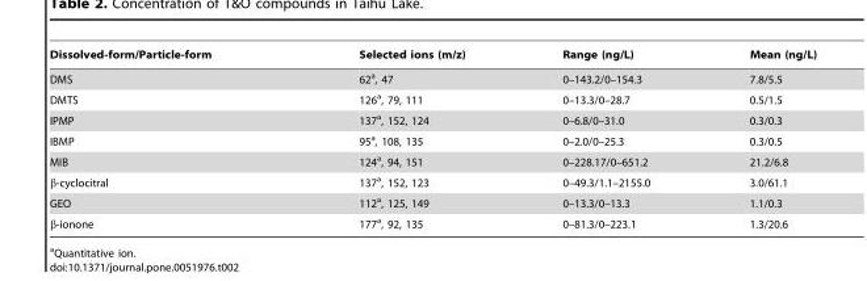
<table><thead><tr><td>Dissolved-form/Particle-form</td><td>Selected ions (m/z)</td><td>Range (ng/L)</td><td>Mean (ng/L)</td></tr></thead><tbody><tr><td>DMS</td><td>62<sup>a</sup>, 47</td><td>0–143.2/0–154.3</td><td>7.8/5.5</td></tr><tr><td>DMTS</td><td>126<sup>a</sup>, 79, 111</td><td>0–13.3/0–28.7</td><td>0.5/1.5</td></tr><tr><td>IPMP</td><td>137<sup>a</sup>, 152, 124</td><td>0–6.8/0–31.0</td><td>0.3/0.3</td></tr><tr><td>IBMP</td><td>95<sup>a</sup>, 108, 135</td><td>0–2.0/0–25.3</td><td>0.3/0.5</td></tr><tr><td>MIB</td><td>124<sup>a</sup>, 94, 151</td><td>0–228.17/0–651.2</td><td>21.2/6.8</td></tr><tr><td>β-cyclocitral</td><td>137<sup>a</sup>, 152, 123</td><td>0–49.3/1.1–2155.0</td><td>3.0/61.1</td></tr><tr><td>GEO</td><td>112<sup>a</sup>, 125, 149</td><td>0–13.3/0–13.3</td><td>1.1/0.3</td></tr><tr><td>β-ionone</td><td>177<sup>a</sup>, 92, 135</td><td>0–81.3/0–223.1</td><td>1.3/20.6</td></tr></tbody></table>